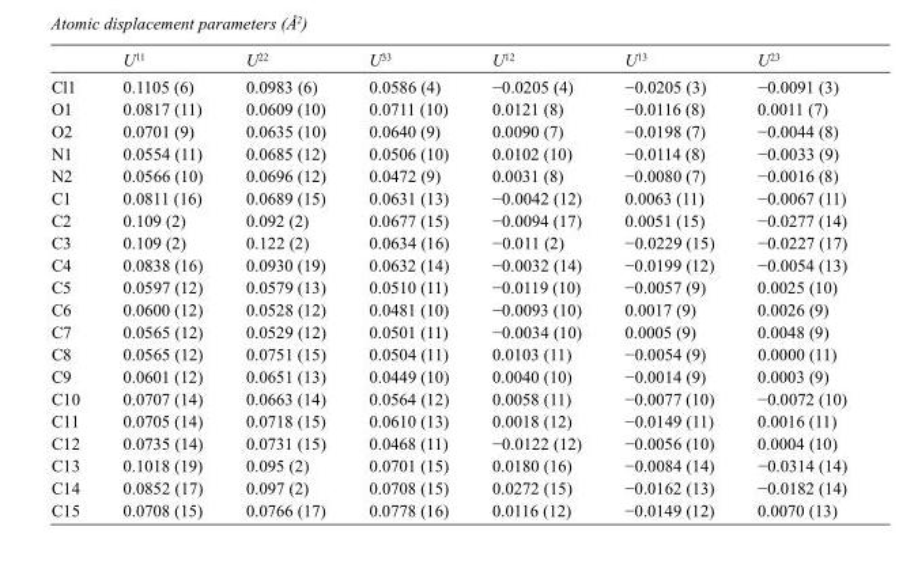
<table><thead><tr><td></td><td>U<sup>11</sup></td><td>U<sup>22</sup></td><td>U<sup>33</sup></td><td>U<sup>12</sup></td><td>U<sup>13</sup></td><td>U<sup>23</sup></td></tr></thead><tbody><tr><td>Cl1</td><td>0.1105 (6)</td><td>0.0983 (6)</td><td>0.0586 (4)</td><td>−0.0205 (4)</td><td>−0.0205 (3)</td><td>−0.0091 (3)</td></tr><tr><td>O1</td><td>0.0817 (11)</td><td>0.0609 (10)</td><td>0.0711 (10)</td><td>0.0121 (8)</td><td>−0.0116 (8)</td><td>0.0011 (7)</td></tr><tr><td>O2</td><td>0.0701 (9)</td><td>0.0635 (10)</td><td>0.0640 (9)</td><td>0.0090 (7)</td><td>−0.0198 (7)</td><td>−0.0044 (8)</td></tr><tr><td>N1</td><td>0.0554 (11)</td><td>0.0685 (12)</td><td>0.0506 (10)</td><td>0.0102 (10)</td><td>−0.0114 (8)</td><td>−0.0033 (9)</td></tr><tr><td>N2</td><td>0.0566 (10)</td><td>0.0696 (12)</td><td>0.0472 (9)</td><td>0.0031 (8)</td><td>−0.0080 (7)</td><td>−0.0016 (8)</td></tr><tr><td>C1</td><td>0.0811 (16)</td><td>0.0689 (15)</td><td>0.0631 (13)</td><td>−0.0042 (12)</td><td>0.0063 (11)</td><td>−0.0067 (11)</td></tr><tr><td>C2</td><td>0.109 (2)</td><td>0.092 (2)</td><td>0.0677 (15)</td><td>−0.0094 (17)</td><td>0.0051 (15)</td><td>−0.0277 (14)</td></tr><tr><td>C3</td><td>0.109 (2)</td><td>0.122 (2)</td><td>0.0634 (16)</td><td>−0.011 (2)</td><td>−0.0229 (15)</td><td>−0.0227 (17)</td></tr><tr><td>C4</td><td>0.0838 (16)</td><td>0.0930 (19)</td><td>0.0632 (14)</td><td>−0.0032 (14)</td><td>−0.0199 (12)</td><td>−0.0054 (13)</td></tr><tr><td>C5</td><td>0.0597 (12)</td><td>0.0579 (13)</td><td>0.0510 (11)</td><td>−0.0119 (10)</td><td>−0.0057 (9)</td><td>0.0025 (10)</td></tr><tr><td>C6</td><td>0.0600 (12)</td><td>0.0528 (12)</td><td>0.0481 (10)</td><td>−0.0093 (10)</td><td>0.0017 (9)</td><td>0.0026 (9)</td></tr><tr><td>C7</td><td>0.0565 (12)</td><td>0.0529 (12)</td><td>0.0501 (11)</td><td>−0.0034 (10)</td><td>0.0005 (9)</td><td>0.0048 (9)</td></tr><tr><td>C8</td><td>0.0565 (12)</td><td>0.0751 (15)</td><td>0.0504 (11)</td><td>0.0103 (11)</td><td>−0.0054 (9)</td><td>0.0000 (11)</td></tr><tr><td>C9</td><td>0.0601 (12)</td><td>0.0651 (13)</td><td>0.0449 (10)</td><td>0.0040 (10)</td><td>−0.0014 (9)</td><td>0.0003 (9)</td></tr><tr><td>C10</td><td>0.0707 (14)</td><td>0.0663 (14)</td><td>0.0564 (12)</td><td>0.0058 (11)</td><td>−0.0077 (10)</td><td>−0.0072 (10)</td></tr><tr><td>C11</td><td>0.0705 (14)</td><td>0.0718 (15)</td><td>0.0610 (13)</td><td>0.0018 (12)</td><td>−0.0149 (11)</td><td>0.0016 (11)</td></tr><tr><td>C12</td><td>0.0735 (14)</td><td>0.0731 (15)</td><td>0.0468 (11)</td><td>−0.0122 (12)</td><td>−0.0056 (10)</td><td>0.0004 (10)</td></tr><tr><td>C13</td><td>0.1018 (19)</td><td>0.095 (2)</td><td>0.0701 (15)</td><td>0.0180 (16)</td><td>−0.0084 (14)</td><td>−0.0314 (14)</td></tr><tr><td>C14</td><td>0.0852 (17)</td><td>0.097 (2)</td><td>0.0708 (15)</td><td>0.0272 (15)</td><td>−0.0162 (13)</td><td>−0.0182 (14)</td></tr><tr><td>C15</td><td>0.0708 (15)</td><td>0.0766 (17)</td><td>0.0778 (16)</td><td>0.0116 (12)</td><td>−0.0149 (12)</td><td>0.0070 (13)</td></tr></tbody></table>